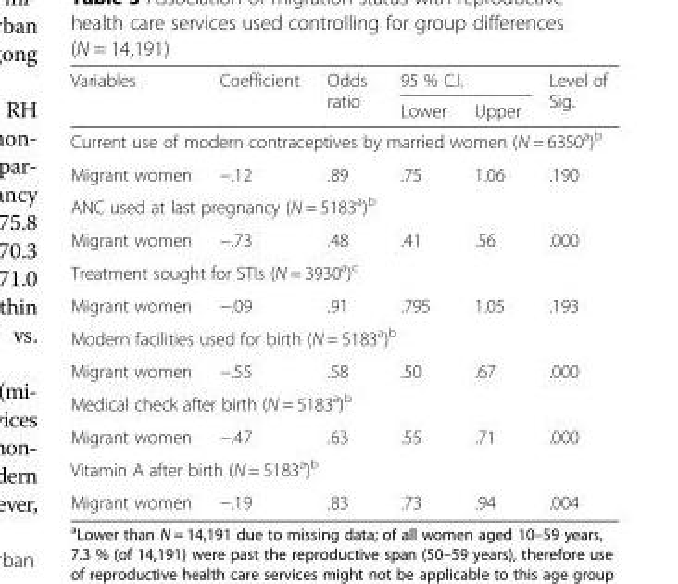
<table><thead><tr><td rowspan="2">Variables</td><td rowspan="2">Coefficient</td><td rowspan="2">Odds ratio</td><td colspan="2">95 % C.I.</td><td rowspan="2">Level of Sig.</td></tr><tr><td>Lower</td><td>Upper</td></tr></thead><tbody><tr><td colspan="6">Current use of modern contraceptives by married women (N = 6350<sup>a</sup>)<sup>b</sup></td></tr><tr><td>Migrant women</td><td>−.12</td><td>.89</td><td>.75</td><td>1.06</td><td>.190</td></tr><tr><td colspan="6">ANC used at last pregnancy (N = 5183<sup>a</sup>)<sup>b</sup></td></tr><tr><td>Migrant women</td><td>−.73</td><td>.48</td><td>.41</td><td>.56</td><td>.000</td></tr><tr><td colspan="6">Treatment sought for STIs (N = 3930<sup>a</sup>)<sup>c</sup></td></tr><tr><td>Migrant women</td><td>−.09</td><td>.91</td><td>.795</td><td>1.05</td><td>.193</td></tr><tr><td colspan="6">Modern facilities used for birth (N = 5183<sup>a</sup>)<sup>b</sup></td></tr><tr><td>Migrant women</td><td>−.55</td><td>.58</td><td>.50</td><td>.67</td><td>.000</td></tr><tr><td colspan="6">Medical check after birth (N = 5183<sup>a</sup>)<sup>b</sup></td></tr><tr><td>Migrant women</td><td>−.47</td><td>.63</td><td>.55</td><td>.71</td><td>.000</td></tr><tr><td colspan="6">Vitamin A after birth (N = 5183<sup>a</sup>)<sup>b</sup></td></tr><tr><td>Migrant women</td><td>−.19</td><td>.83</td><td>.73</td><td>.94</td><td>.004</td></tr></tbody></table>